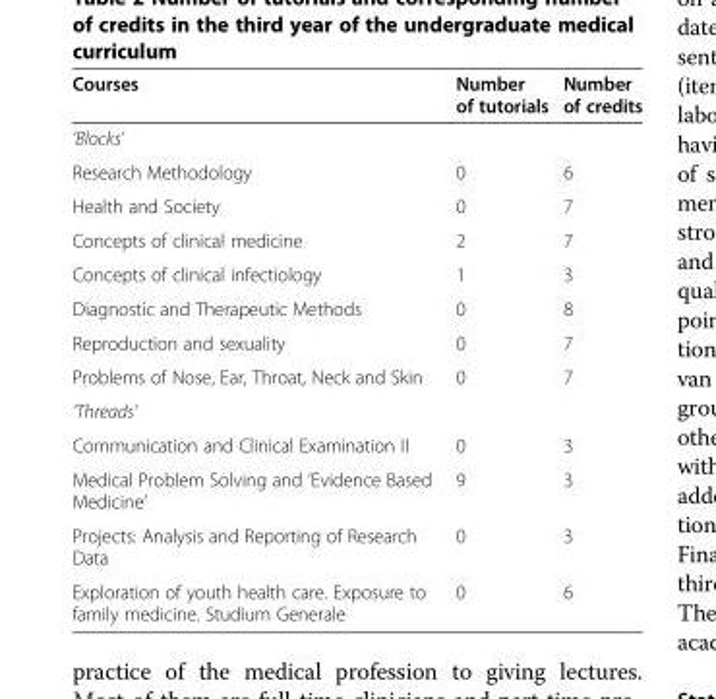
<table><thead><tr><td>Courses</td><td>Number of tutorials</td><td>Number of credits</td></tr></thead><tbody><tr><td colspan="3">‘Blocks’</td></tr><tr><td>Research Methodology</td><td>0</td><td>6</td></tr><tr><td>Health and Society</td><td>0</td><td>7</td></tr><tr><td>Concepts of clinical medicine</td><td>2</td><td>7</td></tr><tr><td>Concepts of clinical infectiology</td><td>1</td><td>3</td></tr><tr><td>Diagnostic and Therapeutic Methods</td><td>0</td><td>8</td></tr><tr><td>Reproduction and sexuality</td><td>0</td><td>7</td></tr><tr><td>Problems of Nose, Ear, Throat, Neck and Skin</td><td>0</td><td>7</td></tr><tr><td colspan="3">‘Threads’</td></tr><tr><td>Communication and Clinical Examination II</td><td>0</td><td>3</td></tr><tr><td>Medical Problem Solving and ‘Evidence Based Medicine’</td><td>9</td><td>3</td></tr><tr><td>Projects: Analysis and Reporting of Research Data</td><td>0</td><td>3</td></tr><tr><td>Exploration of youth health care. Exposure to family medicine. Studium Generale</td><td>0</td><td>6</td></tr></tbody></table>